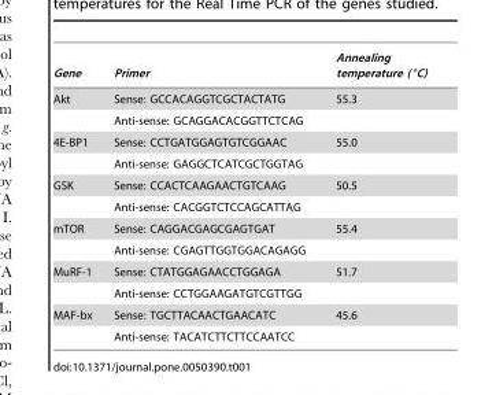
<table><thead><tr><td>Gene</td><td>Primer</td><td>Annealing temperature (°C)</td></tr></thead><tbody><tr><td rowspan="2">Akt</td><td>Sense: GCCACAGGTCGCTACTATG</td><td>55.3</td></tr><tr><td>Anti-sense: GCAGGACACGGTTCTCAG</td><td></td></tr><tr><td rowspan="2">4E-BP1</td><td>Sense: CCTGATGGAGTGTCGGAAC</td><td>55.0</td></tr><tr><td>Anti-sense: GAGGCTCATCGCTGGTAG</td><td></td></tr><tr><td rowspan="2">GSK</td><td>Sense: CCACTCAAGAACTGTCAAG</td><td>50.5</td></tr><tr><td>Anti-sense: CACGGTCTCCAGCATTAG</td><td></td></tr><tr><td rowspan="2">mTOR</td><td>Sense: CAGGACGAGCGAGTGAT</td><td>55.4</td></tr><tr><td>Anti-sense: CGAGTTGGTGGACAGAGG</td><td></td></tr><tr><td rowspan="2">MuRF-1</td><td>Sense: CTATGGAGAACCTGGAGA</td><td>51.7</td></tr><tr><td>Anti-sense: CCTGGAAGATGTCGTTGG</td><td></td></tr><tr><td rowspan="2">MAF-bx</td><td>Sense: TGCTTACAACTGAACATC</td><td>45.6</td></tr><tr><td>Anti-sense: TACATCTTCTTCCAATCC</td><td></td></tr></tbody></table>